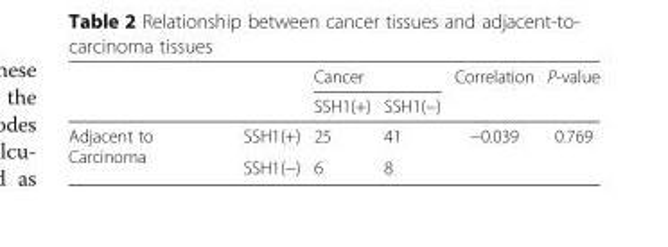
<table><thead><tr><td rowspan="2"></td><td rowspan="2"></td><td colspan="2">Cancer</td><td rowspan="2">Correlation</td><td rowspan="2">P-value</td></tr><tr><td>SSH1(+)</td><td>SSH1(−)</td></tr></thead><tbody><tr><td rowspan="2">Adjacent to Carcinoma</td><td>SSH1(+)</td><td>25</td><td>41</td><td rowspan="2">−0.039</td><td rowspan="2">0.769</td></tr><tr><td>SSH1(−)</td><td>6</td><td>8</td></tr></tbody></table>